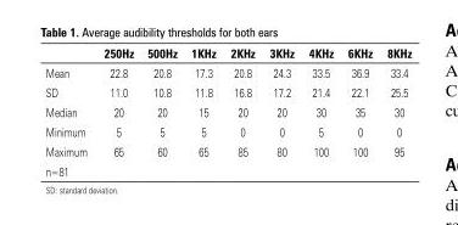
<table><thead><tr><td></td><td>250Hz</td><td>500Hz</td><td>1KHz</td><td>2KHz</td><td>3KHz</td><td>4KHz</td><td>6KHz</td><td>8KHz</td></tr></thead><tbody><tr><td>Mean</td><td>22.8</td><td>20.8</td><td>17.3</td><td>20.8</td><td>24.3</td><td>33.5</td><td>36.9</td><td>33.4</td></tr><tr><td>SD</td><td>11.0</td><td>10.8</td><td>11.8</td><td>16.8</td><td>17.2</td><td>21.4</td><td>22.1</td><td>25.5</td></tr><tr><td>Median</td><td>20</td><td>20</td><td>15</td><td>20</td><td>20</td><td>30</td><td>35</td><td>30</td></tr><tr><td>Minimum</td><td>5</td><td>5</td><td>5</td><td>0</td><td>0</td><td>5</td><td>0</td><td>0</td></tr><tr><td>Maximum</td><td>65</td><td>60</td><td>65</td><td>85</td><td>80</td><td>100</td><td>100</td><td>95</td></tr><tr><td>n=81</td><td></td><td></td><td></td><td></td><td></td><td></td><td></td><td></td></tr></tbody></table>